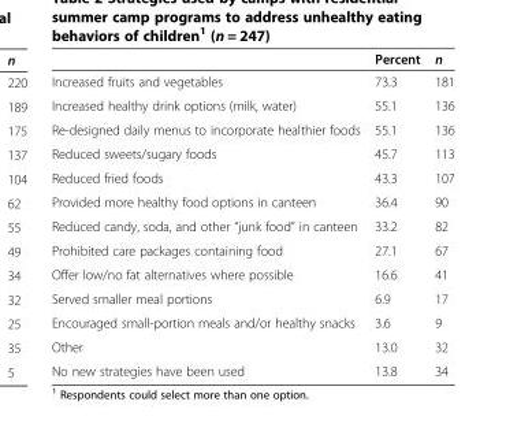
<table><thead><tr><td></td><td>Percent</td><td>n</td></tr></thead><tbody><tr><td>Increased fruits and vegetables</td><td>73.3</td><td>181</td></tr><tr><td>Increased healthy drink options (milk, water)</td><td>55.1</td><td>136</td></tr><tr><td>Re-designed daily menus to incorporate healthier foods</td><td>55.1</td><td>136</td></tr><tr><td>Reduced sweets/sugary foods</td><td>45.7</td><td>113</td></tr><tr><td>Reduced fried foods</td><td>43.3</td><td>107</td></tr><tr><td>Provided more healthy food options in canteen</td><td>36.4</td><td>90</td></tr><tr><td>Reduced candy, soda, and other “junk food” in canteen</td><td>33.2</td><td>82</td></tr><tr><td>Prohibited care packages containing food</td><td>27.1</td><td>67</td></tr><tr><td>Offer low/no fat alternatives where possible</td><td>16.6</td><td>41</td></tr><tr><td>Served smaller meal portions</td><td>6.9</td><td>17</td></tr><tr><td>Encouraged small-portion meals and/or healthy snacks</td><td>3.6</td><td>9</td></tr><tr><td>Other</td><td>13.0</td><td>32</td></tr><tr><td>No new strategies have been used</td><td>13.8</td><td>34</td></tr></tbody></table>